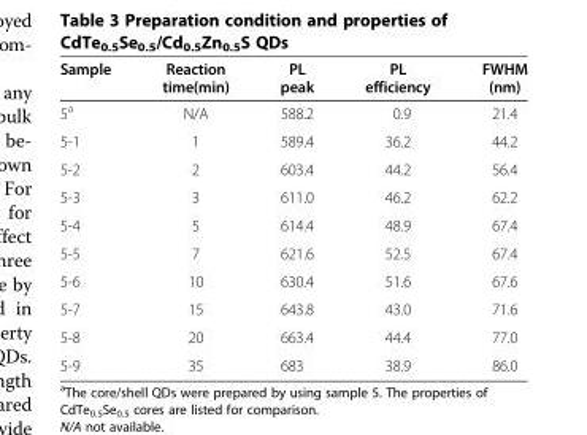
<table><thead><tr><td>Sample</td><td>Reaction time(min)</td><td>PL peak</td><td>PL efficiency</td><td>FWHM (nm)</td></tr></thead><tbody><tr><td>5<sup>a</sup></td><td>N/A</td><td>588.2</td><td>0.9</td><td>21.4</td></tr><tr><td>5-1</td><td>1</td><td>589.4</td><td>36.2</td><td>44.2</td></tr><tr><td>5-2</td><td>2</td><td>603.4</td><td>44.2</td><td>56.4</td></tr><tr><td>5-3</td><td>3</td><td>611.0</td><td>46.2</td><td>62.2</td></tr><tr><td>5-4</td><td>5</td><td>614.4</td><td>48.9</td><td>67.4</td></tr><tr><td>5-5</td><td>7</td><td>621.6</td><td>52.5</td><td>67.4</td></tr><tr><td>5-6</td><td>10</td><td>630.4</td><td>51.6</td><td>67.6</td></tr><tr><td>5-7</td><td>15</td><td>643.8</td><td>43.0</td><td>71.6</td></tr><tr><td>5-8</td><td>20</td><td>663.4</td><td>44.4</td><td>77.0</td></tr><tr><td>5-9</td><td>35</td><td>683</td><td>38.9</td><td>86.0</td></tr></tbody></table>